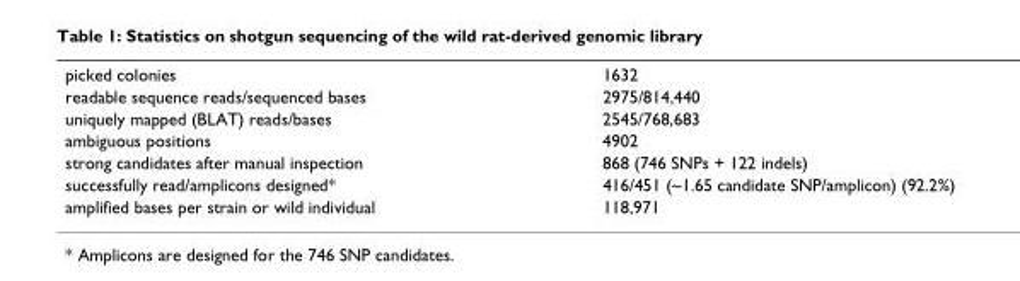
<table><tbody><tr><td>picked colonies</td><td>1632</td></tr><tr><td>readable sequence reads/sequenced bases</td><td>2975/814,440</td></tr><tr><td>uniquely mapped (BLAT) reads/bases</td><td>2545/768,683</td></tr><tr><td>ambiguous positions</td><td>4902</td></tr><tr><td>strong candidates after manual inspection</td><td>868 (746 SNPs + 122 indels)</td></tr><tr><td>successfully read/amplicons designed*</td><td>416/451 (~1.65 candidate SNP/amplicon) (92.2%)</td></tr><tr><td>amplified bases per strain or wild individual</td><td>118,971</td></tr></tbody></table>